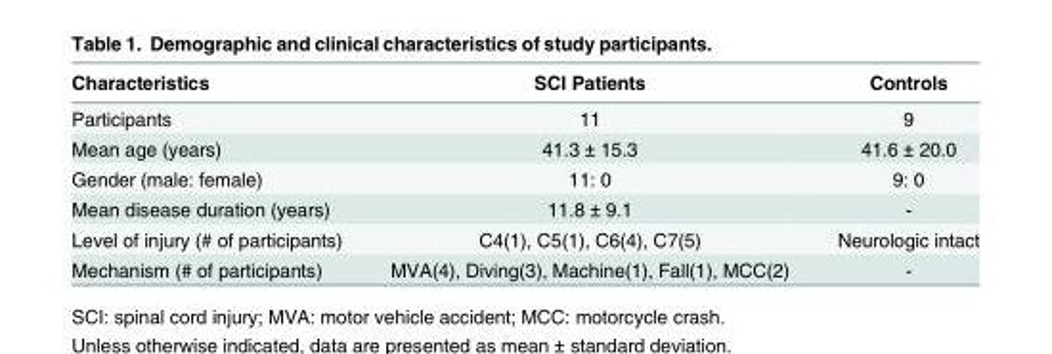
<table><thead><tr><td>Characteristics</td><td>SCI Patients</td><td>Controls</td></tr></thead><tbody><tr><td>Participants</td><td>11</td><td>9</td></tr><tr><td>Mean age (years)</td><td>41.3 ± 15.3</td><td>41.6 ± 20.0</td></tr><tr><td>Gender (male: female)</td><td>11: 0</td><td>9: 0</td></tr><tr><td>Mean disease duration (years)</td><td>11.8 ± 9.1</td><td>-</td></tr><tr><td>Level of injury (# of participants)</td><td>C4(1), C5(1), C6(4), C7(5)</td><td>Neurologic intact</td></tr><tr><td>Mechanism (# of participants)</td><td>MVA(4), Diving(3), Machine(1), Fall(1), MCC(2)</td><td>-</td></tr></tbody></table>